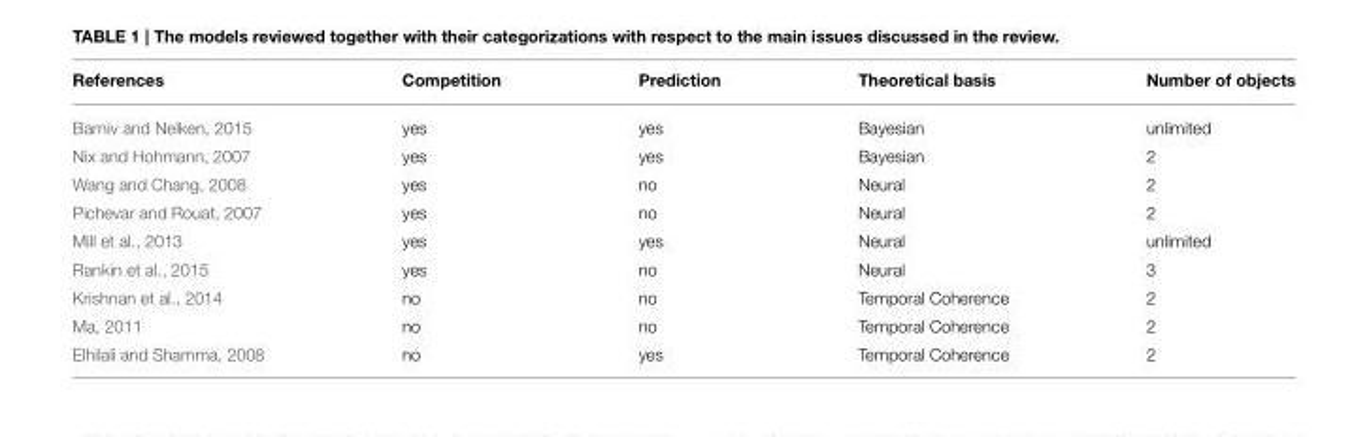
<table><thead><tr><td>References</td><td>Competition</td><td>Prediction</td><td>Theoretical basis</td><td>Number of objects</td></tr></thead><tbody><tr><td>Barniv and Nelken, 2015</td><td>yes</td><td>yes</td><td>Bayesian</td><td>unlimited</td></tr><tr><td>Nix and Hohmann, 2007</td><td>yes</td><td>yes</td><td>Bayesian</td><td>2</td></tr><tr><td>Wang and Chang, 2008</td><td>yes</td><td>no</td><td>Neural</td><td>2</td></tr><tr><td>Pichevar and Rouat, 2007</td><td>yes</td><td>no</td><td>Neural</td><td>2</td></tr><tr><td>Mill et al., 2013</td><td>yes</td><td>yes</td><td>Neural</td><td>unlimited</td></tr><tr><td>Rankin et al., 2015</td><td>yes</td><td>no</td><td>Neural</td><td>3</td></tr><tr><td>Krishnan et al., 2014</td><td>no</td><td>no</td><td>Temporal Coherence</td><td>2</td></tr><tr><td>Ma, 2011</td><td>no</td><td>no</td><td>Temporal Coherence</td><td>2</td></tr><tr><td>Elhilali and Shamma, 2008</td><td>no</td><td>yes</td><td>Temporal Coherence</td><td>2</td></tr></tbody></table>